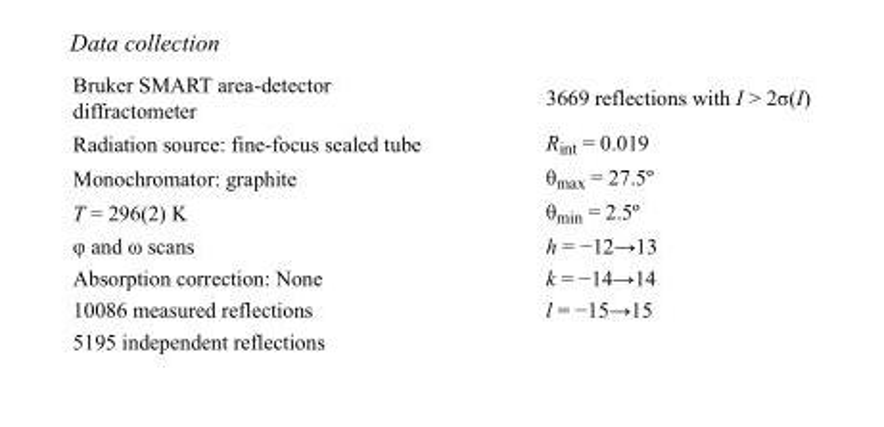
<table><tbody><tr><td>Bruker SMART area-detector diffractometer</td><td>3669 reflections with I &gt; 2σ(I)</td></tr><tr><td>Radiation source: fine-focus sealed tube</td><td>R<sub>int</sub> = 0.019</td></tr><tr><td>Monochromator: graphite</td><td>θ<sub>max</sub> = 27.5º</td></tr><tr><td>T = 296(2) K</td><td>θ<sub>min</sub> = 2.5º</td></tr><tr><td>φ and ω scans</td><td>h = −12→13</td></tr><tr><td>Absorption correction: None</td><td>k = −14→14</td></tr><tr><td>10086 measured reflections</td><td>l = −15→15</td></tr><tr><td>5195 independent reflections</td><td></td></tr></tbody></table>